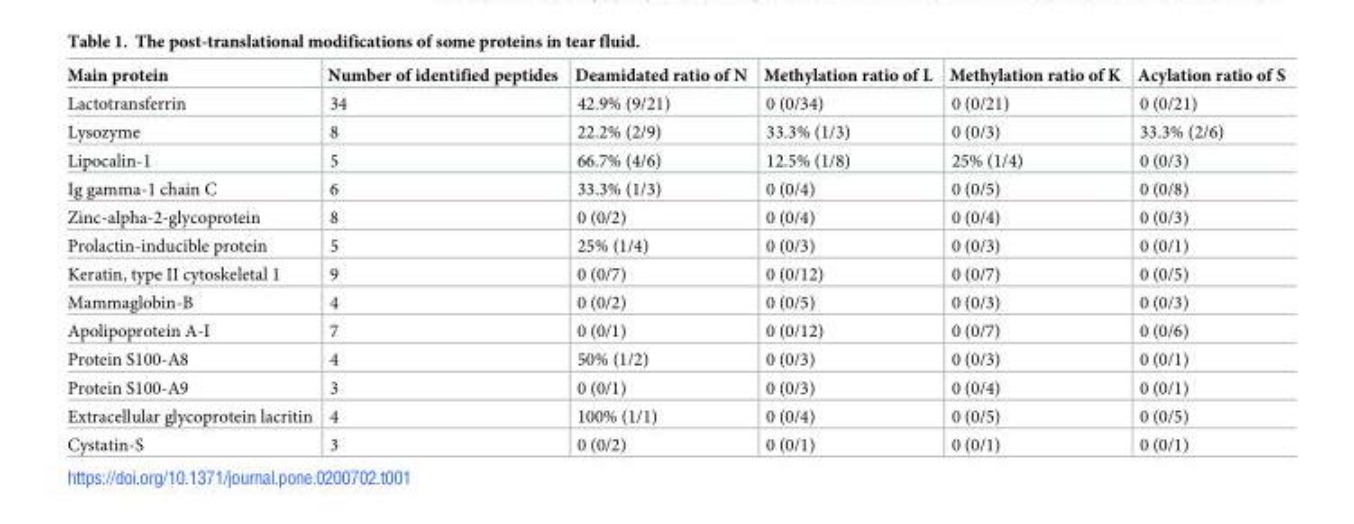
<table><thead><tr><td>Main protein</td><td>Number of identified peptides</td><td>Deamidated ratio of N</td><td>Methylation ratio of L</td><td>Methylation ratio of K</td><td>Acylation ratio of S</td></tr></thead><tbody><tr><td>Lactotransferrin</td><td>34</td><td>42.9% (9/21)</td><td>0 (0/34)</td><td>0 (0/21)</td><td>0 (0/21)</td></tr><tr><td>Lysozyme</td><td>8</td><td>22.2% (2/9)</td><td>33.3% (1/3)</td><td>0 (0/3)</td><td>33.3% (2/6)</td></tr><tr><td>Lipocalin-1</td><td>5</td><td>66.7% (4/6)</td><td>12.5% (1/8)</td><td>25% (1/4)</td><td>0 (0/3)</td></tr><tr><td>Ig gamma-1 chain C</td><td>6</td><td>33.3% (1/3)</td><td>0 (0/4)</td><td>0 (0/5)</td><td>0 (0/8)</td></tr><tr><td>Zinc-alpha-2-glycoprotein</td><td>8</td><td>0 (0/2)</td><td>0 (0/4)</td><td>0 (0/4)</td><td>0 (0/3)</td></tr><tr><td>Prolactin-inducible protein</td><td>5</td><td>25% (1/4)</td><td>0 (0/3)</td><td>0 (0/3)</td><td>0 (0/1)</td></tr><tr><td>Keratin, type II cytoskeletal 1</td><td>9</td><td>0 (0/7)</td><td>0 (0/12)</td><td>0 (0/7)</td><td>0 (0/5)</td></tr><tr><td>Mammaglobin-B</td><td>4</td><td>0 (0/2)</td><td>0 (0/5)</td><td>0 (0/3)</td><td>0 (0/3)</td></tr><tr><td>Apolipoprotein A-I</td><td>7</td><td>0 (0/1)</td><td>0 (0/12)</td><td>0 (0/7)</td><td>0 (0/6)</td></tr><tr><td>Protein S100-A8</td><td>4</td><td>50% (1/2)</td><td>0 (0/3)</td><td>0 (0/3)</td><td>0 (0/1)</td></tr><tr><td>Protein S100-A9</td><td>3</td><td>0 (0/1)</td><td>0 (0/3)</td><td>0 (0/4)</td><td>0 (0/1)</td></tr><tr><td>Extracellular glycoprotein lacritin</td><td>4</td><td>100% (1/1)</td><td>0 (0/4)</td><td>0 (0/5)</td><td>0 (0/5)</td></tr><tr><td>Cystatin-S</td><td>3</td><td>0 (0/2)</td><td>0 (0/1)</td><td>0 (0/1)</td><td>0 (0/1)</td></tr></tbody></table>